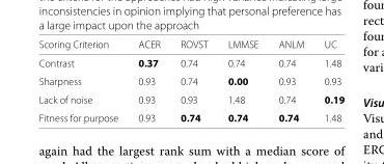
<table><thead><tr><td>Scoring Criterion</td><td>ACER</td><td>ROVST</td><td>LMMSE</td><td>ANLM</td><td>UC</td></tr></thead><tbody><tr><td>Contrast</td><td>0.37</td><td>0.74</td><td>0.74</td><td>0.74</td><td>1.48</td></tr><tr><td>Sharpness</td><td>0.93</td><td>0.74</td><td>0.00</td><td>0.93</td><td>0.93</td></tr><tr><td>Lack of noise</td><td>0.93</td><td>0.93</td><td>1.48</td><td>0.74</td><td>0.19</td></tr><tr><td>Fitness for purpose</td><td>0.93</td><td>0.74</td><td>0.74</td><td>0.74</td><td>1.48</td></tr></tbody></table>